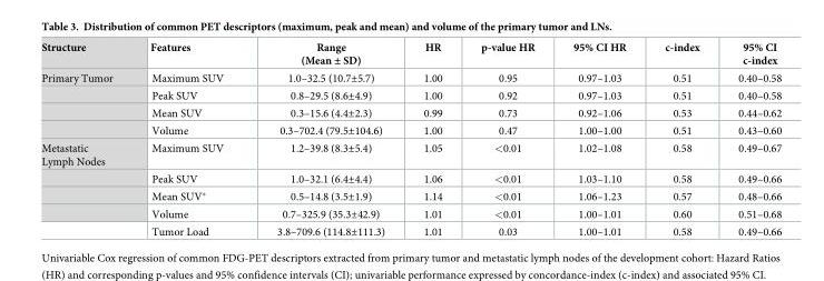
<table><thead><tr><td>Structure</td><td>Features</td><td>Range (Mean ± SD)</td><td>HR</td><td>p-value HR</td><td>95% CI HR</td><td>c-index</td><td>95% CI c-index</td></tr></thead><tbody><tr><td rowspan="4">Primary Tumor</td><td>Maximum SUV</td><td>1.0–32.5 (10.7±5.7)</td><td>1.00</td><td>0.95</td><td>0.97–1.03</td><td>0.51</td><td>0.40–0.58</td></tr><tr><td>Peak SUV</td><td>0.8–29.5 (8.6±4.9)</td><td>1.00</td><td>0.92</td><td>0.97–1.03</td><td>0.51</td><td>0.40–0.58</td></tr><tr><td>Mean SUV</td><td>0.3–15.6 (4.4±2.3)</td><td>0.99</td><td>0.73</td><td>0.92–1.06</td><td>0.53</td><td>0.44–0.62</td></tr><tr><td>Volume</td><td>0.3–702.4 (79.5±104.6)</td><td>1.00</td><td>0.47</td><td>1.00–1.00</td><td>0.51</td><td>0.43–0.60</td></tr><tr><td rowspan="5">Metastatic Lymph Nodes</td><td>Maximum SUV</td><td>1.2–39.8 (8.3±5.4)</td><td>1.05</td><td>&lt;0.01</td><td>1.02–1.08</td><td>0.58</td><td>0.49–0.67</td></tr><tr><td>Peak SUV</td><td>1.0–32.1 (6.4±4.4)</td><td>1.06</td><td>&lt;0.01</td><td>1.03–1.10</td><td>0.58</td><td>0.49–0.66</td></tr><tr><td>Mean SUV*</td><td>0.5–14.8 (3.5±1.9)</td><td>1.14</td><td>&lt;0.01</td><td>1.06–1.23</td><td>0.57</td><td>0.48–0.66</td></tr><tr><td>Volume</td><td>0.7–325.9 (35.3±42.9)</td><td>1.01</td><td>&lt;0.01</td><td>1.00–1.01</td><td>0.60</td><td>0.51–0.68</td></tr><tr><td>Tumor Load</td><td>3.8–709.6 (114.8±111.3)</td><td>1.01</td><td>0.03</td><td>1.00–1.01</td><td>0.58</td><td>0.49–0.66</td></tr></tbody></table>